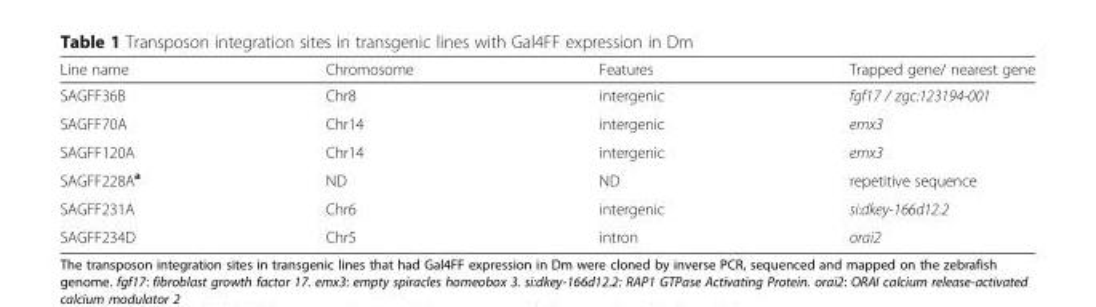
<table><thead><tr><td>Line name</td><td>Chromosome</td><td>Features</td><td>Trapped gene/ nearest gene</td></tr></thead><tbody><tr><td>SAGFF36B</td><td>Chr8</td><td>intergenic</td><td>fgf17 / zgc:123194-001</td></tr><tr><td>SAGFF70A</td><td>Chr14</td><td>intergenic</td><td>emx3</td></tr><tr><td>SAGFF120A</td><td>Chr14</td><td>intergenic</td><td>emx3</td></tr><tr><td>SAGFF228A<sup>a</sup></td><td>ND</td><td>ND</td><td>repetitive sequence</td></tr><tr><td>SAGFF231A</td><td>Chr6</td><td>intergenic</td><td>si:dkey-166d12.2</td></tr><tr><td>SAGFF234D</td><td>Chr5</td><td>intron</td><td>orai2</td></tr></tbody></table>